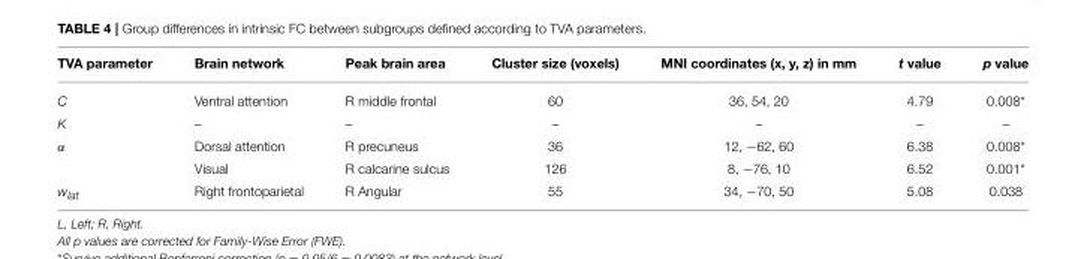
<table><thead><tr><td>TVA parameter</td><td>Brain network</td><td>Peak brain area</td><td>Cluster size (voxels)</td><td>MNI coordinates (x, y, z) in mm</td><td>t value</td><td>p value</td></tr></thead><tbody><tr><td>C</td><td>Ventral attention</td><td>R middle frontal</td><td>60</td><td>36, 54, 20</td><td>4.79</td><td>0.008*</td></tr><tr><td>K</td><td>–</td><td>–</td><td>–</td><td>–</td><td>–</td><td>–</td></tr><tr><td rowspan="2">α</td><td>Dorsal attention</td><td>R precuneus</td><td>36</td><td>12, −62, 60</td><td>6.38</td><td>0.008*</td></tr><tr><td>Visual</td><td>R calcarine sulcus</td><td>126</td><td>8, −76, 10</td><td>6.52</td><td>0.001*</td></tr><tr><td>wlat</td><td>Right frontoparietal</td><td>R Angular</td><td>55</td><td>34, −70, 50</td><td>5.08</td><td>0.038</td></tr></tbody></table>